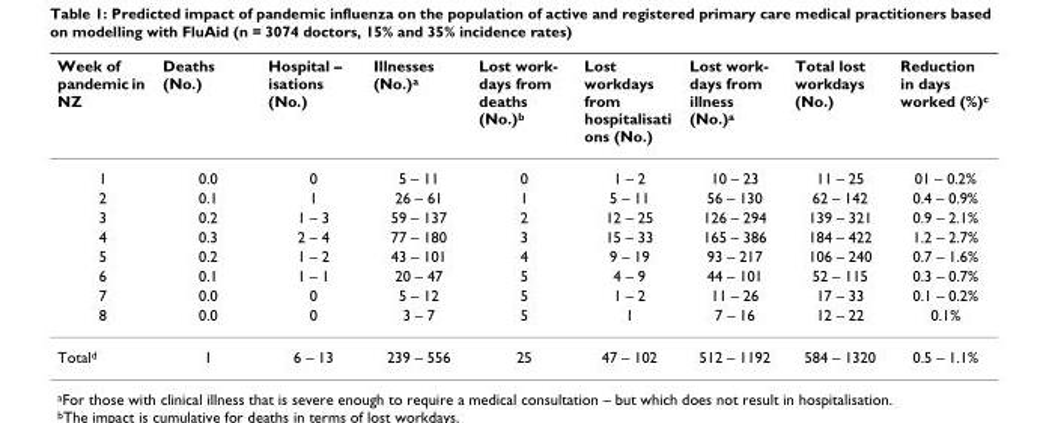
<table><thead><tr><td>Week of pandemic in NZ</td><td>Deaths (No.)</td><td>Hospital – isations (No.)</td><td>Illnesses (No.)<sup>a</sup></td><td>Lost work- days from deaths (No.)b</td><td>Lost workdays from hospitalisati ons (No.)</td><td>Lost work- days from illness (No.)a</td><td>Total lost workdays (No.)</td><td>Reduction in days worked (%)<sup>c</sup></td></tr></thead><tbody><tr><td>1</td><td>0.0</td><td>0</td><td>5 – 11</td><td>0</td><td>1 – 2</td><td>10 – 23</td><td>11 – 25</td><td>01 – 0.2%</td></tr><tr><td>2</td><td>0.1</td><td>1</td><td>26 – 61</td><td>1</td><td>5 – 11</td><td>56 – 130</td><td>62 – 142</td><td>0.4 – 0.9%</td></tr><tr><td>3</td><td>0.2</td><td>1 – 3</td><td>59 – 137</td><td>2</td><td>12 – 25</td><td>126 – 294</td><td>139 – 321</td><td>0.9 – 2.1%</td></tr><tr><td>4</td><td>0.3</td><td>2 – 4</td><td>77 – 180</td><td>3</td><td>15 – 33</td><td>165 – 386</td><td>184 – 422</td><td>1.2 – 2.7%</td></tr><tr><td>5</td><td>0.2</td><td>1 – 2</td><td>43 – 101</td><td>4</td><td>9 – 19</td><td>93 – 217</td><td>106 – 240</td><td>0.7 – 1.6%</td></tr><tr><td>6</td><td>0.1</td><td>1 – 1</td><td>20 – 47</td><td>5</td><td>4 – 9</td><td>44 – 101</td><td>52 – 115</td><td>0.3 – 0.7%</td></tr><tr><td>7</td><td>0.0</td><td>0</td><td>5 – 12</td><td>5</td><td>1 – 2</td><td>11 – 26</td><td>17 – 33</td><td>0.1 – 0.2%</td></tr><tr><td>8</td><td>0.0</td><td>0</td><td>3 – 7</td><td>5</td><td>1</td><td>7 – 16</td><td>12 – 22</td><td>0.1%</td></tr><tr><td>Total<sup>d</sup></td><td>1</td><td>6 – 13</td><td>239 – 556</td><td>25</td><td>47 – 102</td><td>512 – 1192</td><td>584 – 1320</td><td>0.5 – 1.1%</td></tr></tbody></table>